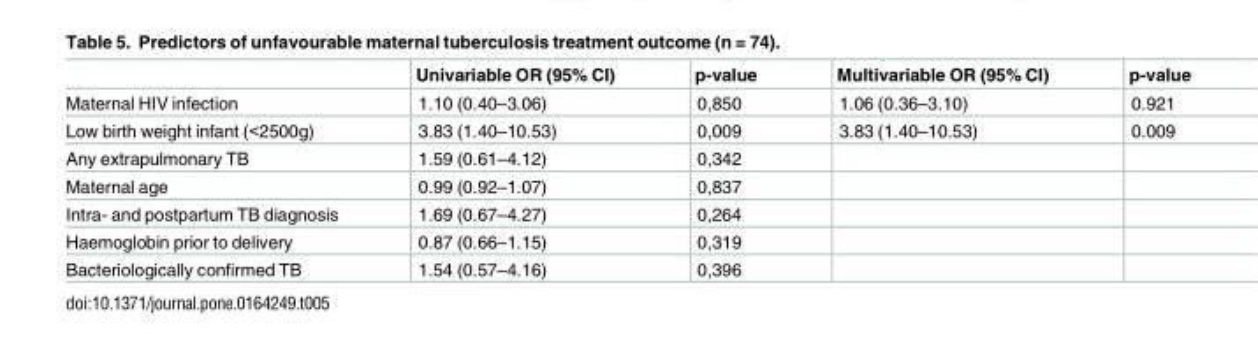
<table><thead><tr><td></td><td>Univariable OR (95% CI)</td><td>p-value</td><td>Multivariable OR (95% CI)</td><td>p-value</td></tr></thead><tbody><tr><td>Maternal HIV infection</td><td>1.10 (0.40–3.06)</td><td>0,850</td><td>1.06 (0.36–3.10)</td><td>0.921</td></tr><tr><td>Low birth weight infant (&lt;2500g)</td><td>3.83 (1.40–10.53)</td><td>0,009</td><td>3.83 (1.40–10.53)</td><td>0.009</td></tr><tr><td>Any extrapulmonary TB</td><td>1.59 (0.61–4.12)</td><td>0,342</td><td></td><td></td></tr><tr><td>Maternal age</td><td>0.99 (0.92–1.07)</td><td>0,837</td><td></td><td></td></tr><tr><td>Intra- and postpartum TB diagnosis</td><td>1.69 (0.67–4.27)</td><td>0,264</td><td></td><td></td></tr><tr><td>Haemoglobin prior to delivery</td><td>0.87 (0.66–1.15)</td><td>0,319</td><td></td><td></td></tr><tr><td>Bacteriologically confirmed TB</td><td>1.54 (0.57–4.16)</td><td>0,396</td><td></td><td></td></tr></tbody></table>